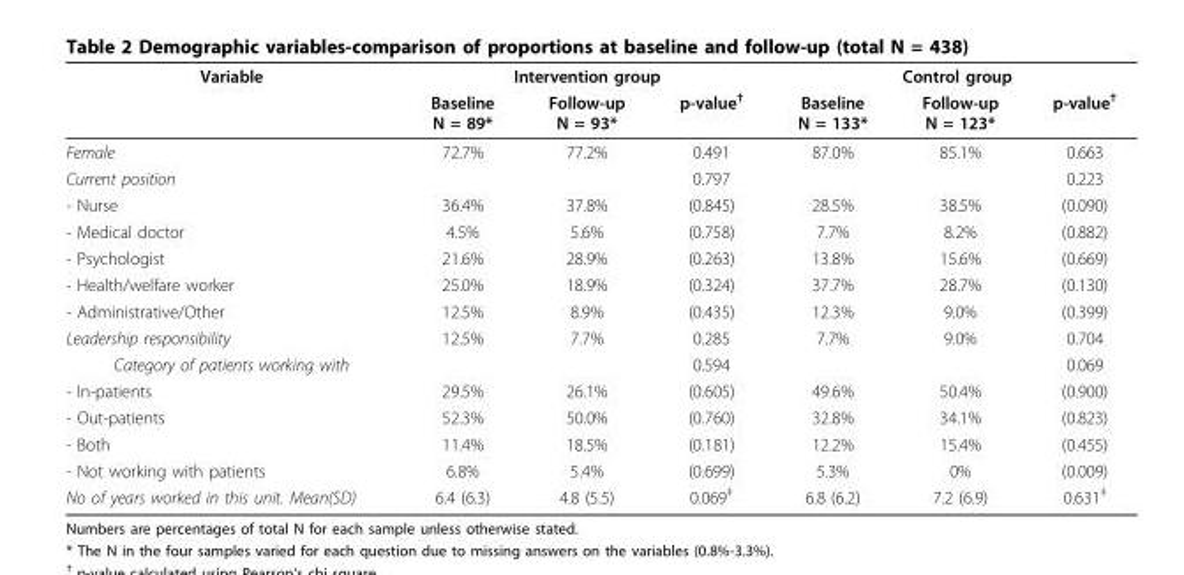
<table><thead><tr><td rowspan="2">Variable</td><td colspan="3">Intervention group</td><td colspan="3">Control group</td></tr><tr><td>Baseline N = 89*</td><td>Follow-up N = 93*</td><td>p-value<sup>†</sup></td><td>Baseline N = 133*</td><td>Follow-up N = 123*</td><td>p-value<sup>†</sup></td></tr></thead><tbody><tr><td>Female</td><td>72.7%</td><td>77.2%</td><td>0.491</td><td>87.0%</td><td>85.1%</td><td>0.663</td></tr><tr><td>Current position</td><td></td><td></td><td>0.797</td><td></td><td></td><td>0.223</td></tr><tr><td>- Nurse</td><td>36.4%</td><td>37.8%</td><td>(0.845)</td><td>28.5%</td><td>38.5%</td><td>(0.090)</td></tr><tr><td>- Medical doctor</td><td>4.5%</td><td>5.6%</td><td>(0.758)</td><td>7.7%</td><td>8.2%</td><td>(0.882)</td></tr><tr><td>- Psychologist</td><td>21.6%</td><td>28.9%</td><td>(0.263)</td><td>13.8%</td><td>15.6%</td><td>(0.669)</td></tr><tr><td>- Health/welfare worker</td><td>25.0%</td><td>18.9%</td><td>(0.324)</td><td>37.7%</td><td>28.7%</td><td>(0.130)</td></tr><tr><td>- Administrative/Other</td><td>12.5%</td><td>8.9%</td><td>(0.435)</td><td>12.3%</td><td>9.0%</td><td>(0.399)</td></tr><tr><td>Leadership responsibility</td><td>12.5%</td><td>7.7%</td><td>0.285</td><td>7.7%</td><td>9.0%</td><td>0.704</td></tr><tr><td>Category of patients working with</td><td></td><td></td><td>0.594</td><td></td><td></td><td>0.069</td></tr><tr><td>- In-patients</td><td>29.5%</td><td>26.1%</td><td>(0.605)</td><td>49.6%</td><td>50.4%</td><td>(0.900)</td></tr><tr><td>- Out-patients</td><td>52.3%</td><td>50.0%</td><td>(0.760)</td><td>32.8%</td><td>34.1%</td><td>(0.823)</td></tr><tr><td>- Both</td><td>11.4%</td><td>18.5%</td><td>(0.181)</td><td>12.2%</td><td>15.4%</td><td>(0.455)</td></tr><tr><td>- Not working with patients</td><td>6.8%</td><td>5.4%</td><td>(0.699)</td><td>5.3%</td><td>0%</td><td>(0.009)</td></tr><tr><td>No of years worked in this unit. Mean(SD)</td><td>6.4 (6.3)</td><td>4.8 (5.5)</td><td>0.069<sup>‡</sup></td><td>6.8 (6.2)</td><td>7.2 (6.9)</td><td>0.631<sup>‡</sup></td></tr></tbody></table>